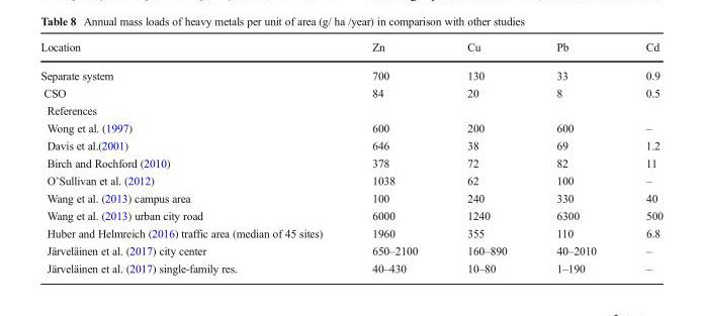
<table><thead><tr><td>Location</td><td>Zn</td><td>Cu</td><td>Pb</td><td>Cd</td></tr></thead><tbody><tr><td>Separate system</td><td>700</td><td>130</td><td>33</td><td>0.9</td></tr><tr><td>CSO</td><td>84</td><td>20</td><td>8</td><td>0.5</td></tr><tr><td colspan="5">References</td></tr><tr><td>Wong et al. (1997)</td><td>600</td><td>200</td><td>600</td><td>–</td></tr><tr><td>Davis et al.(2001)</td><td>646</td><td>38</td><td>69</td><td>1.2</td></tr><tr><td>Birch and Rochford (2010)</td><td>378</td><td>72</td><td>82</td><td>11</td></tr><tr><td>O’Sullivan et al. (2012)</td><td>1038</td><td>62</td><td>100</td><td>–</td></tr><tr><td>Wang et al. (2013) campus area</td><td>100</td><td>240</td><td>330</td><td>40</td></tr><tr><td>Wang et al. (2013) urban city road</td><td>6000</td><td>1240</td><td>6300</td><td>500</td></tr><tr><td>Huber and Helmreich (2016) traffic area (median of 45 sites)</td><td>1960</td><td>355</td><td>110</td><td>6.8</td></tr><tr><td>Järveläinen et al. (2017) city center</td><td>650–2100</td><td>160–890</td><td>40–2010</td><td>–</td></tr><tr><td>Järveläinen et al. (2017) single-family res.</td><td>40–430</td><td>10–80</td><td>1–190</td><td>–</td></tr></tbody></table>